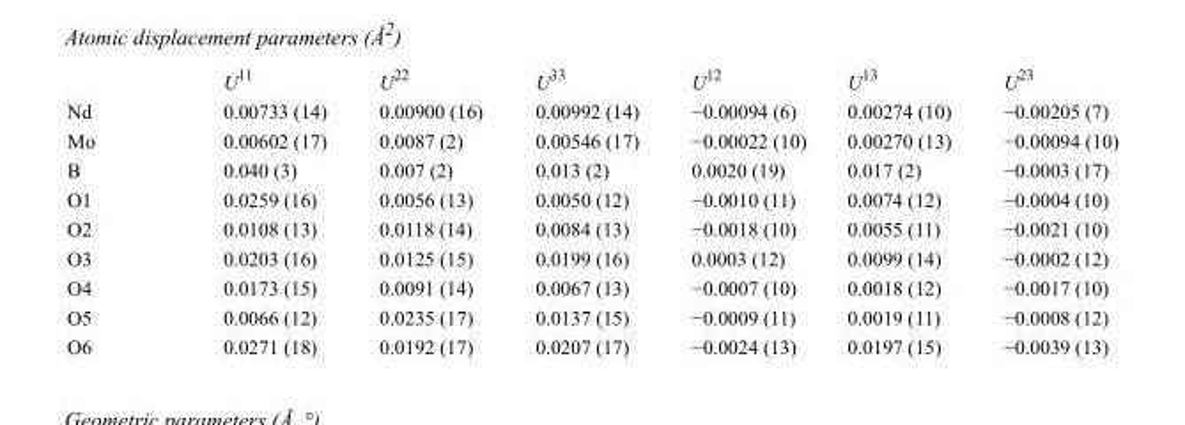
<table><thead><tr><td></td><td>U<sup>11</sup></td><td>U<sup>22</sup></td><td>U<sup>33</sup></td><td>U<sup>12</sup></td><td>U<sup>13</sup></td><td>U<sup>23</sup></td></tr></thead><tbody><tr><td>Nd</td><td>0.00733 (14)</td><td>0.00900 (16)</td><td>0.00992 (14)</td><td>−0.00094 (6)</td><td>0.00274 (10)</td><td>−0.00205 (7)</td></tr><tr><td>Mo</td><td>0.00602 (17)</td><td>0.0087 (2)</td><td>0.00546 (17)</td><td>−0.00022 (10)</td><td>0.00270 (13)</td><td>−0.00094 (10)</td></tr><tr><td>B</td><td>0.040 (3)</td><td>0.007 (2)</td><td>0.013 (2)</td><td>0.0020 (19)</td><td>0.017 (2)</td><td>−0.0003 (17)</td></tr><tr><td>O1</td><td>0.0259 (16)</td><td>0.0056 (13)</td><td>0.0050 (12)</td><td>−0.0010 (11)</td><td>0.0074 (12)</td><td>−0.0004 (10)</td></tr><tr><td>O2</td><td>0.0108 (13)</td><td>0.0118 (14)</td><td>0.0084 (13)</td><td>−0.0018 (10)</td><td>0.0055 (11)</td><td>−0.0021 (10)</td></tr><tr><td>O3</td><td>0.0203 (16)</td><td>0.0125 (15)</td><td>0.0199 (16)</td><td>0.0003 (12)</td><td>0.0099 (14)</td><td>−0.0002 (12)</td></tr><tr><td>O4</td><td>0.0173 (15)</td><td>0.0091 (14)</td><td>0.0067 (13)</td><td>−0.0007 (10)</td><td>0.0018 (12)</td><td>−0.0017 (10)</td></tr><tr><td>O5</td><td>0.0066 (12)</td><td>0.0235 (17)</td><td>0.0137 (15)</td><td>−0.0009 (11)</td><td>0.0019 (11)</td><td>−0.0008 (12)</td></tr><tr><td>O6</td><td>0.0271 (18)</td><td>0.0192 (17)</td><td>0.0207 (17)</td><td>−0.0024 (13)</td><td>0.0197 (15)</td><td>−0.0039 (13)</td></tr></tbody></table>